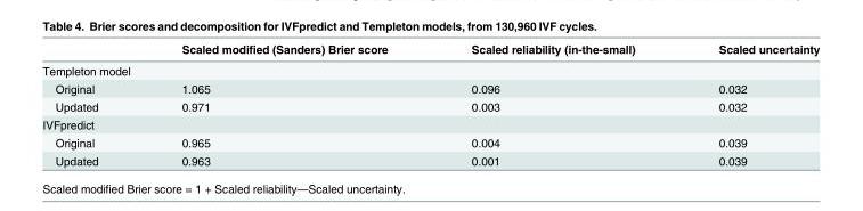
<table><thead><tr><td></td><td>Scaled modified (Sanders) Brier score</td><td>Scaled reliability (in-the-small)</td><td>Scaled uncertainty</td></tr></thead><tbody><tr><td colspan="4">Templeton model</td></tr><tr><td>Original</td><td>1.065</td><td>0.096</td><td>0.032</td></tr><tr><td>Updated</td><td>0.971</td><td>0.003</td><td>0.032</td></tr><tr><td colspan="4">IVFpredict</td></tr><tr><td>Original</td><td>0.965</td><td>0.004</td><td>0.039</td></tr><tr><td>Updated</td><td>0.963</td><td>0.001</td><td>0.039</td></tr></tbody></table>